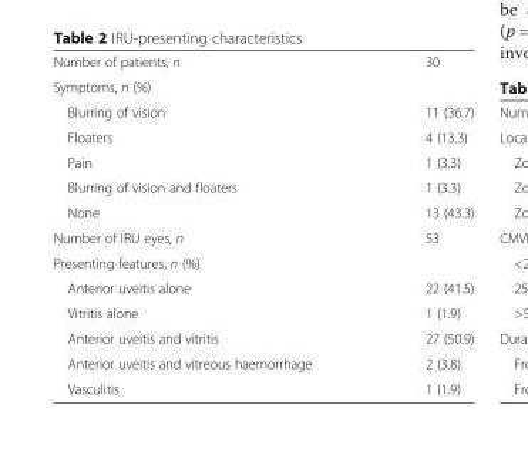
<table><tbody><tr><td>Number of patients, n</td><td>30</td></tr><tr><td colspan="2">Symptoms, n (%)</td></tr><tr><td>Blurring of vision</td><td>11 (36.7)</td></tr><tr><td>Floaters</td><td>4 (13.3)</td></tr><tr><td>Pain</td><td>1 (3.3)</td></tr><tr><td>Blurring of vision and floaters</td><td>1 (3.3)</td></tr><tr><td>None</td><td>13 (43.3)</td></tr><tr><td>Number of IRU eyes, n</td><td>53</td></tr><tr><td colspan="2">Presenting features, n (%)</td></tr><tr><td>Anterior uveitis alone</td><td>22 (41.5)</td></tr><tr><td>Vitritis alone</td><td>1 (1.9)</td></tr><tr><td>Anterior uveitis and vitritis</td><td>27 (50.9)</td></tr><tr><td>Anterior uveitis and vitreous haemorrhage</td><td>2 (3.8)</td></tr><tr><td>Vasculitis</td><td>1 (1.9)</td></tr></tbody></table>